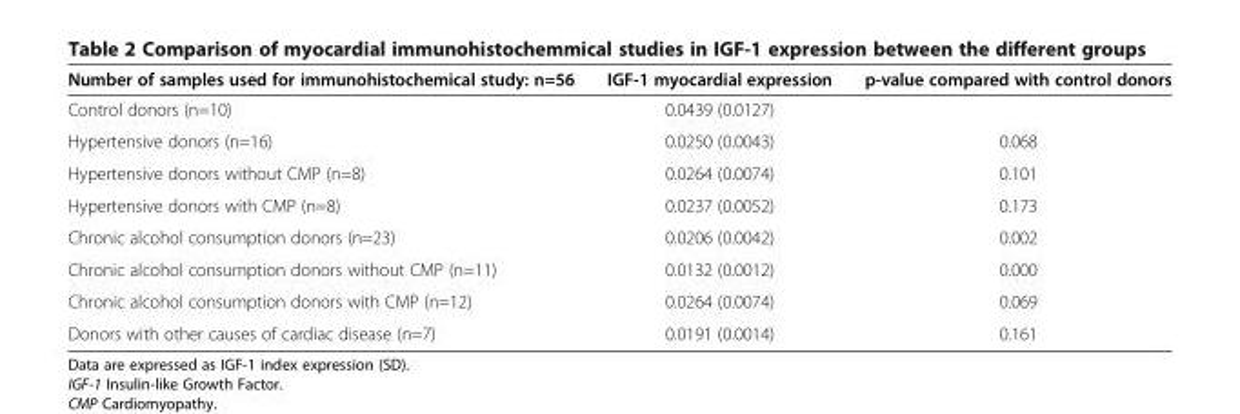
<table><thead><tr><td>Number of samples used for immunohistochemical study: n=56</td><td>IGF-1 myocardial expression</td><td>p-value compared with control donors</td></tr></thead><tbody><tr><td>Control donors (n=10)</td><td>0.0439 (0.0127)</td><td></td></tr><tr><td>Hypertensive donors (n=16)</td><td>0.0250 (0.0043)</td><td>0.068</td></tr><tr><td>Hypertensive donors without CMP (n=8)</td><td>0.0264 (0.0074)</td><td>0.101</td></tr><tr><td>Hypertensive donors with CMP (n=8)</td><td>0.0237 (0.0052)</td><td>0.173</td></tr><tr><td>Chronic alcohol consumption donors (n=23)</td><td>0.0206 (0.0042)</td><td>0.002</td></tr><tr><td>Chronic alcohol consumption donors without CMP (n=11)</td><td>0.0132 (0.0012)</td><td>0.000</td></tr><tr><td>Chronic alcohol consumption donors with CMP (n=12)</td><td>0.0264 (0.0074)</td><td>0.069</td></tr><tr><td>Donors with other causes of cardiac disease (n=7)</td><td>0.0191 (0.0014)</td><td>0.161</td></tr></tbody></table>